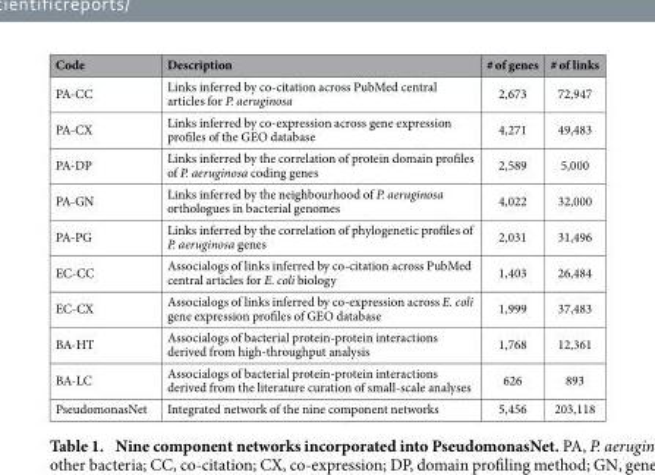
<table><thead><tr><td>Code</td><td>Description</td><td># of genes</td><td># of links</td></tr></thead><tbody><tr><td>PA-CC</td><td>Links inferred by co-citation across PubMed central articles for P. aeruginosa</td><td>2,673</td><td>72,947</td></tr><tr><td>PA-CX</td><td>Links inferred by co-expression across gene expression profiles of the GEO database</td><td>4,271</td><td>49,483</td></tr><tr><td>PA-DP</td><td>Links inferred by the correlation of protein domain profiles of P. aeruginosa coding genes</td><td>2,589</td><td>5,000</td></tr><tr><td>PA-GN</td><td>Links inferred by the neighbourhood of P. aeruginosa orthologues in bacterial genomes</td><td>4,022</td><td>32,000</td></tr><tr><td>PA-PG</td><td>Links inferred by the correlation of phylogenetic profiles of P. aeruginosa genes</td><td>2,031</td><td>31,496</td></tr><tr><td>EC-CC</td><td>Associalogs of links inferred by co-citation across PubMed central articles for E. coli biology</td><td>1,403</td><td>26,484</td></tr><tr><td>EC-CX</td><td>Associalogs of links inferred by co-expression across E. coli gene expression profiles of GEO database</td><td>1,999</td><td>37,483</td></tr><tr><td>BA-HT</td><td>Associalogs of bacterial protein-protein interactions derived from high-throughput analysis</td><td>1,768</td><td>12,361</td></tr><tr><td>BA-LC</td><td>Associalogs of bacterial protein-protein interactions derived from the literature curation of small-scale analyses</td><td>626</td><td>893</td></tr><tr><td>PseudomonasNet</td><td>Integrated network of the nine component networks</td><td>5,456</td><td>203,118</td></tr></tbody></table>